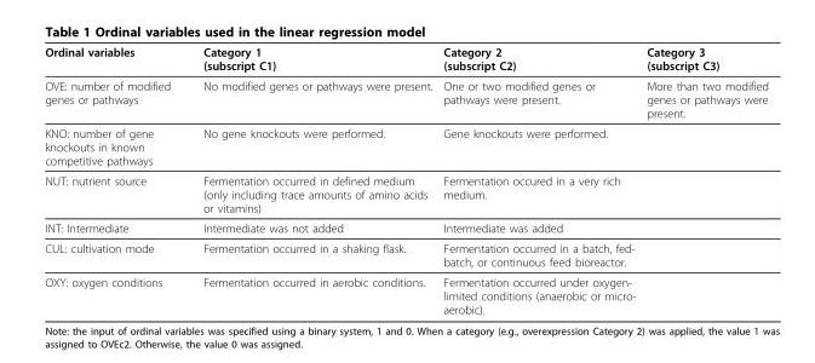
<table><thead><tr><td>Ordinal variables</td><td>Category 1 (subscript C1)</td><td>Category 2 (subscript C2)</td><td>Category 3 (subscript C3)</td></tr></thead><tbody><tr><td>OVE: number of modified genes or pathways</td><td>No modified genes or pathways were present.</td><td>One or two modified genes or pathways were present.</td><td>More than two modified genes or pathways were present.</td></tr><tr><td>KNO: number of gene knockouts in known competitive pathways</td><td>No gene knockouts were performed.</td><td>Gene knockouts were performed.</td><td></td></tr><tr><td>NUT: nutrient source</td><td>Fermentation occurred in defined medium (only including trace amounts of amino acids or vitamins)</td><td>Fermentation occured in a very rich medium.</td><td></td></tr><tr><td>INT: Intermediate</td><td>Intermediate was not added</td><td>Intermediate was added</td><td></td></tr><tr><td>CUL: cultivation mode</td><td>Fermentation occurred in a shaking flask.</td><td>Fermentation occurred in a batch, fed- batch, or continuous feed bioreactor.</td><td></td></tr><tr><td>OXY: oxygen conditions</td><td>Fermentation occurred in aerobic conditions.</td><td>Fermentation occurred under oxygen- limited conditions (anaerobic or micro- aerobic).</td><td></td></tr></tbody></table>